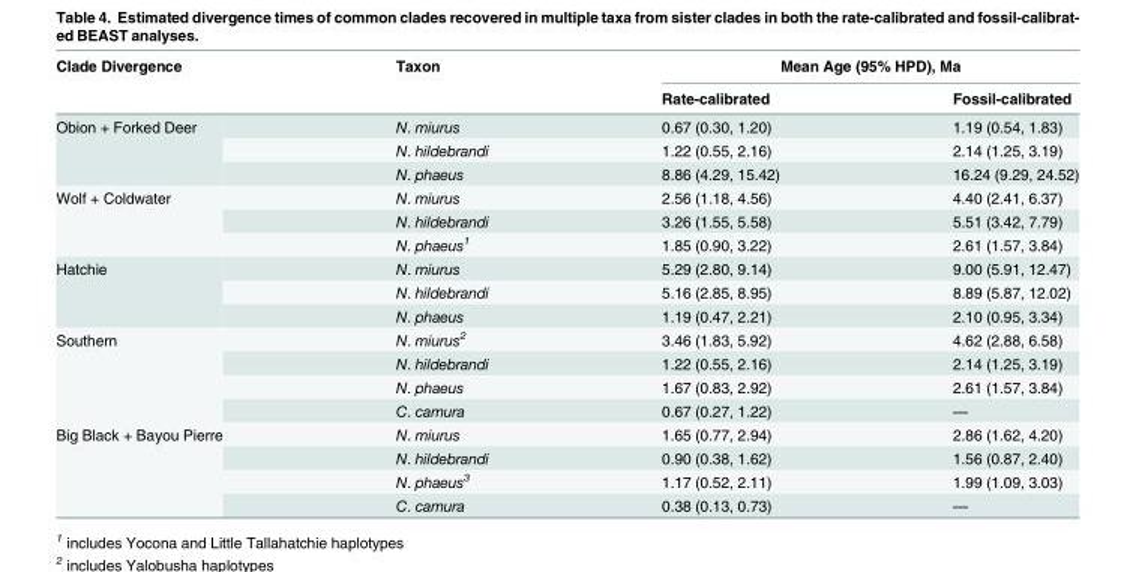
<table><thead><tr><td rowspan="2">Clade Divergence</td><td rowspan="2">Taxon</td><td colspan="2">Mean Age (95% HPD), Ma</td></tr><tr><td>Rate-calibrated</td><td>Fossil-calibrated</td></tr></thead><tbody><tr><td rowspan="3">Obion + Forked Deer</td><td>N. miurus</td><td>0.67 (0.30, 1.20)</td><td>1.19 (0.54, 1.83)</td></tr><tr><td>N. hildebrandi</td><td>1.22 (0.55, 2.16)</td><td>2.14 (1.25, 3.19)</td></tr><tr><td>N. phaeus</td><td>8.86 (4.29, 15.42)</td><td>16.24 (9.29, 24.52)</td></tr><tr><td rowspan="3">Wolf + Coldwater</td><td>N. miurus</td><td>2.56 (1.18, 4.56)</td><td>4.40 (2.41, 6.37)</td></tr><tr><td>N. hildebrandi</td><td>3.26 (1.55, 5.58)</td><td>5.51 (3.42, 7.79)</td></tr><tr><td>N. phaeus<sup>1</sup></td><td>1.85 (0.90, 3.22)</td><td>2.61 (1.57, 3.84)</td></tr><tr><td rowspan="3">Hatchie</td><td>N. miurus</td><td>5.29 (2.80, 9.14)</td><td>9.00 (5.91, 12.47)</td></tr><tr><td>N. hildebrandi</td><td>5.16 (2.85, 8.95)</td><td>8.89 (5.87, 12.02)</td></tr><tr><td>N. phaeus</td><td>1.19 (0.47, 2.21)</td><td>2.10 (0.95, 3.34)</td></tr><tr><td rowspan="4">Southern</td><td>N. miurus<sup>2</sup></td><td>3.46 (1.83, 5.92)</td><td>4.62 (2.88, 6.58)</td></tr><tr><td>N. hildebrandi</td><td>1.22 (0.55, 2.16)</td><td>2.14 (1.25, 3.19)</td></tr><tr><td>N. phaeus</td><td>1.67 (0.83, 2.92)</td><td>2.61 (1.57, 3.84)</td></tr><tr><td>C. camura</td><td>0.67 (0.27, 1.22)</td><td>—</td></tr><tr><td rowspan="4">Big Black + Bayou Pierre</td><td>N. miurus</td><td>1.65 (0.77, 2.94)</td><td>2.86 (1.62, 4.20)</td></tr><tr><td>N. hildebrandi</td><td>0.90 (0.38, 1.62)</td><td>1.56 (0.87, 2.40)</td></tr><tr><td>N. phaeus<sup>3</sup></td><td>1.17 (0.52, 2.11)</td><td>1.99 (1.09, 3.03)</td></tr><tr><td>C. camura</td><td>0.38 (0.13, 0.73)</td><td>—</td></tr></tbody></table>